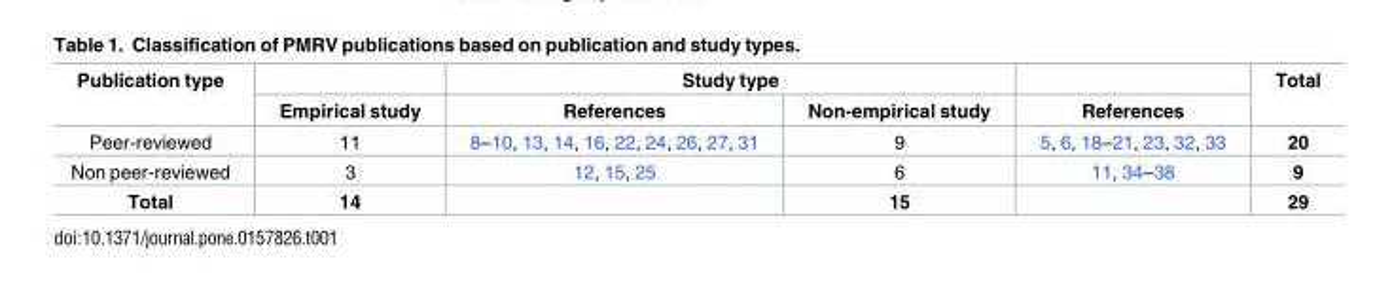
<table><thead><tr><td rowspan="2">Publication type</td><td rowspan="2">Empirical study</td><td colspan="2">Study type</td><td rowspan="2">References</td><td rowspan="2">Total</td></tr><tr><td>References</td><td>Non-empirical study</td></tr></thead><tbody><tr><td>Peer-reviewed</td><td>11</td><td>8–10, 13, 14, 16, 22, 24, 26, 27, 31</td><td>9</td><td>5, 6, 18–21, 23, 32, 33</td><td>20</td></tr><tr><td>Non peer-reviewed</td><td>3</td><td>12, 15, 25</td><td>6</td><td>11, 34–38</td><td>9</td></tr><tr><td>Total</td><td>14</td><td></td><td>15</td><td></td><td>29</td></tr></tbody></table>